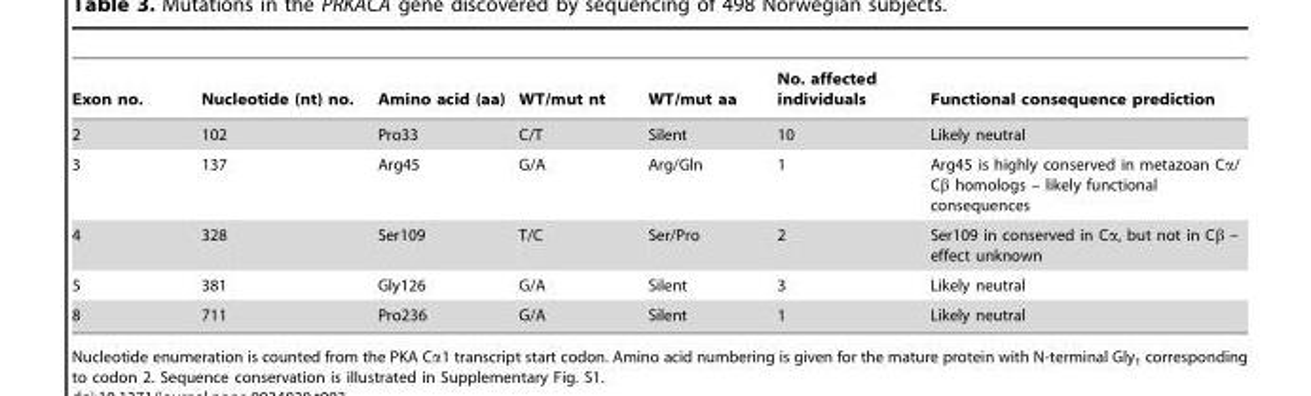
<table><thead><tr><td>Exon no.</td><td>Nucleotide (nt) no.</td><td>Amino acid (aa)</td><td>WT/mut nt</td><td>WT/mut aa</td><td>No. affected individuals</td><td>Functional consequence prediction</td></tr></thead><tbody><tr><td>2</td><td>102</td><td>Pro33</td><td>C/T</td><td>Silent</td><td>10</td><td>Likely neutral</td></tr><tr><td>3</td><td>137</td><td>Arg45</td><td>G/A</td><td>Arg/Gln</td><td>1</td><td>Arg45 is highly conserved in metazoan Cα/ Cβ homologs – likely functional consequences</td></tr><tr><td>4</td><td>328</td><td>Ser109</td><td>T/C</td><td>Ser/Pro</td><td>2</td><td>Ser109 in conserved in Cα, but not in Cβ – effect unknown</td></tr><tr><td>5</td><td>381</td><td>Gly126</td><td>G/A</td><td>Silent</td><td>3</td><td>Likely neutral</td></tr><tr><td>8</td><td>711</td><td>Pro236</td><td>G/A</td><td>Silent</td><td>1</td><td>Likely neutral</td></tr></tbody></table>